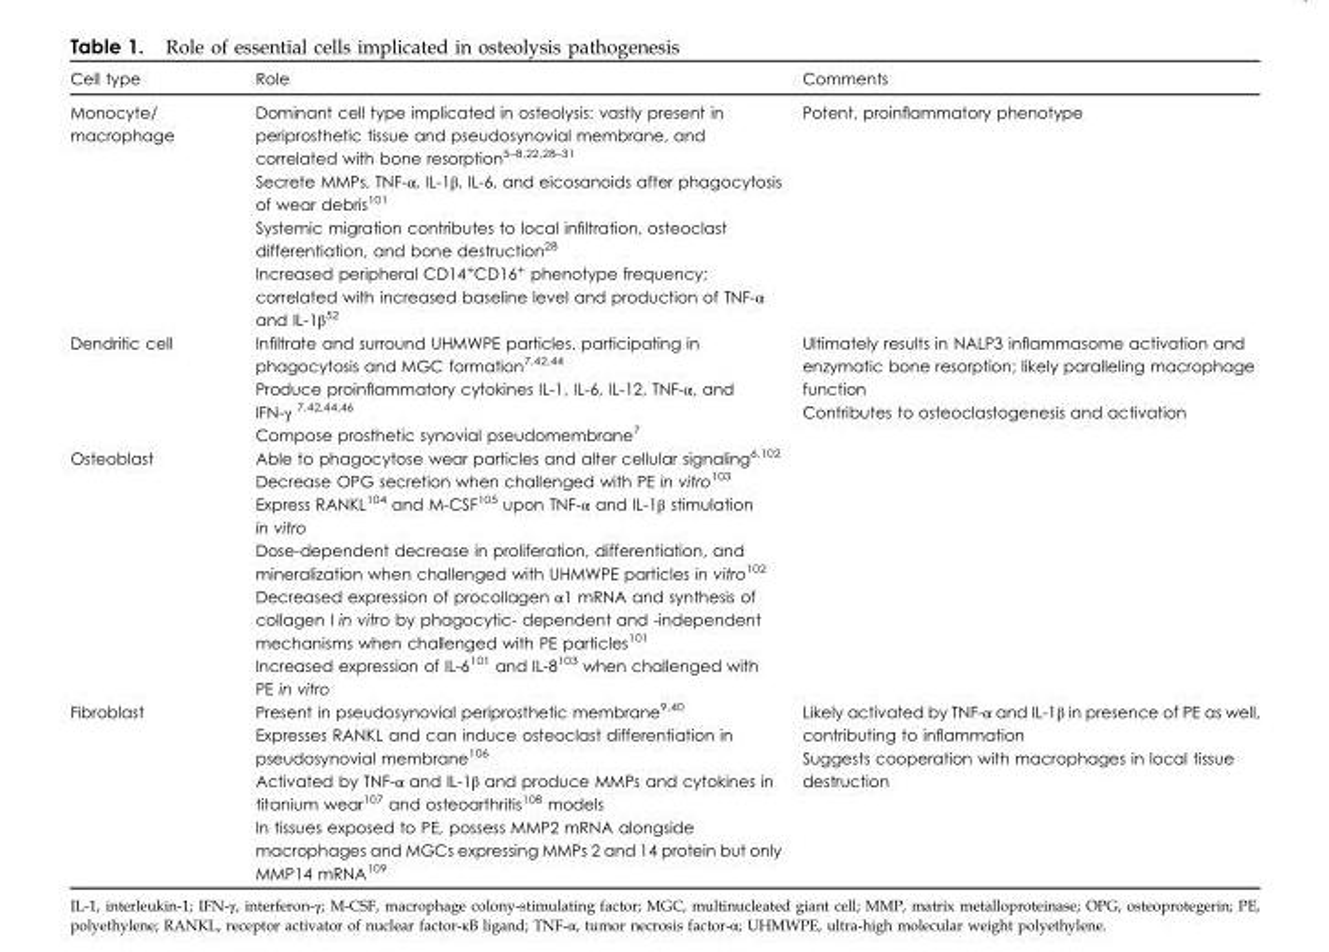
<table><thead><tr><td>Cell type</td><td>Role</td><td>Comments</td></tr></thead><tbody><tr><td>Monocyte/ macrophage</td><td>Dominant cell type implicated in osteolysis: vastly present in periprosthetic tissue and pseudosynovial membrane, and correlated with bone resorption<sup>5–8,22,28–31</sup> Secrete MMPs, TNF-α, IL-1β, IL-6, and eicosanoids after phagocytosis of wear debris<sup>101</sup> Systemic migration contributes to local infiltration, osteoclast differentiation, and bone destruction<sup>28</sup> Increased peripheral CD14<sup>+</sup>CD16<sup>+</sup> phenotype frequency; correlated with increased baseline level and production of TNF-α and IL-1β<sup>52</sup></td><td>Potent, proinflammatory phenotype</td></tr><tr><td>Dendritic cell</td><td>Infiltrate and surround UHMWPE particles, participating in phagocytosis and MGC formation<sup>7,42,44</sup> Produce proinflammatory cytokines IL-1, IL-6, IL-12, TNF-α, and IFN-γ <sup>7,42,44,46</sup> Compose prosthetic synovial pseudomembrane<sup>7</sup></td><td>Ultimately results in NALP3 inflammasome activation and enzymatic bone resorption; likely paralleling macrophage function Contributes to osteoclastogenesis and activation</td></tr><tr><td>Osteoblast</td><td>Able to phagocytose wear particles and alter cellular signaling<sup>6,102</sup> Decrease OPG secretion when challenged with PE in vitro<sup>103</sup> Express RANKL<sup>104</sup> and M-CSF<sup>105</sup> upon TNF-α and IL-1β stimulation in vitro Dose-dependent decrease in proliferation, differentiation, and mineralization when challenged with UHMWPE particles in vitro<sup>102</sup> Decreased expression of procollagen α1 mRNA and synthesis of collagen I in vitro by phagocytic- dependent and -independent mechanisms when challenged with PE particles<sup>101</sup> Increased expression of IL-6<sup>101</sup> and IL-8<sup>103</sup> when challenged with PE in vitro</td><td></td></tr><tr><td>Fibroblast</td><td>Present in pseudosynovial periprosthetic membrane<sup>9,40</sup> Expresses RANKL and can induce osteoclast differentiation in pseudosynovial membrane<sup>106</sup> Activated by TNF-α and IL-1β and produce MMPs and cytokines in titanium wear<sup>107</sup> and osteoarthritis<sup>108</sup> models In tissues exposed to PE, possess MMP2 mRNA alongside macrophages and MGCs expressing MMPs 2 and 14 protein but only MMP14 mRNA<sup>109</sup></td><td>Likely activated by TNF-α and IL-1β in presence of PE as well, contributing to inflammation Suggests cooperation with macrophages in local tissue destruction</td></tr></tbody></table>